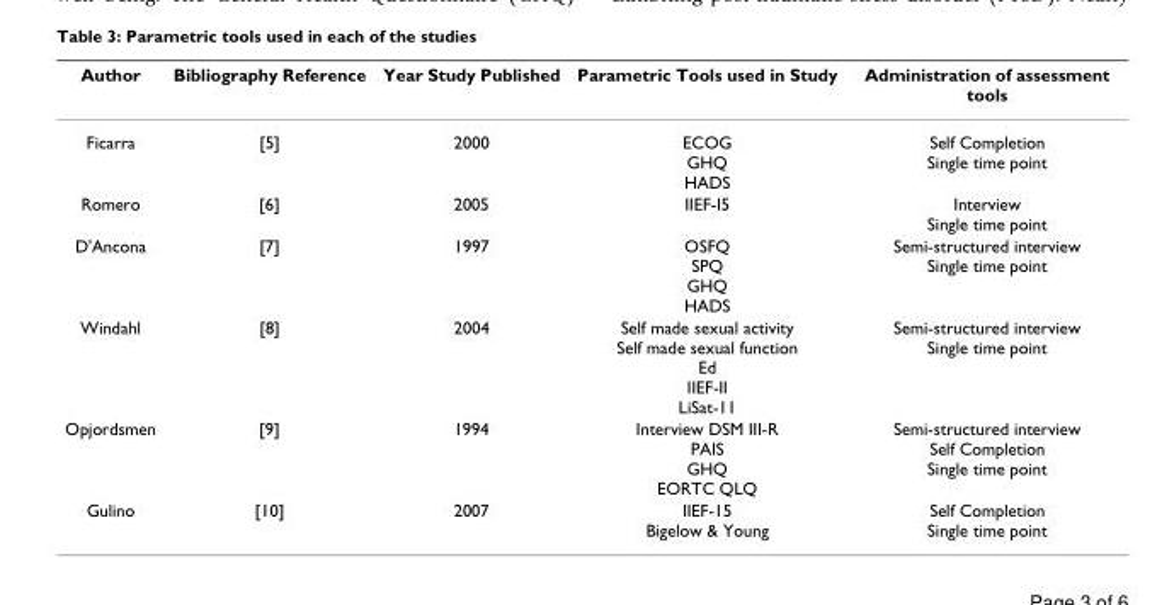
<table><thead><tr><td>Author</td><td>Bibliography Reference</td><td>Year Study Published</td><td>Parametric Tools used in Study</td><td>Administration of assessment tools</td></tr></thead><tbody><tr><td>Ficarra</td><td>[5]</td><td>2000</td><td>ECOG GHQ HADS</td><td>Self Completion Single time point</td></tr><tr><td>Romero</td><td>[6]</td><td>2005</td><td>IIEF-I5</td><td>Interview Single time point</td></tr><tr><td>D&#x27;Ancona</td><td>[7]</td><td>1997</td><td>OSFQ SPQ GHQ HADS</td><td>Semi-structured interview Single time point</td></tr><tr><td>Windahl</td><td>[8]</td><td>2004</td><td>Self made sexual activity Self made sexual function Ed IIEF-II LiSat-11</td><td>Semi-structured interview Single time point</td></tr><tr><td>Opjordsmen</td><td>[9]</td><td>1994</td><td>Interview DSM III-R PAIS GHQ EORTC QLQ</td><td>Semi-structured interview Self Completion Single time point</td></tr><tr><td>Gulino</td><td>[10]</td><td>2007</td><td>IIEF-15 Bigelow &amp; Young</td><td>Self Completion Single time point</td></tr></tbody></table>